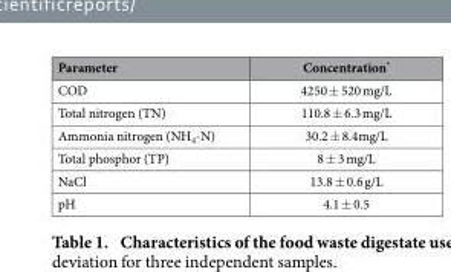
<table><thead><tr><td>Parameter</td><td>Concentration*</td></tr></thead><tbody><tr><td>COD</td><td>4250 ± 520 mg/L</td></tr><tr><td>Total nitrogen (TN)</td><td>110.8 ± 6.3 mg/L</td></tr><tr><td>Ammonia nitrogen (NH<sub>4</sub>-N)</td><td>30.2 ± 8.4mg/L</td></tr><tr><td>Total phosphor (TP)</td><td>8 ± 3 mg/L</td></tr><tr><td>NaCl</td><td>13.8 ± 0.6 g/L</td></tr><tr><td>pH</td><td>4.1 ± 0.5</td></tr></tbody></table>